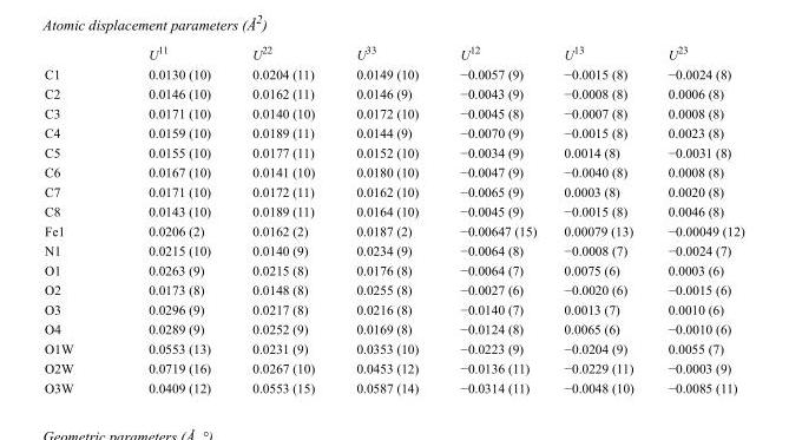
<table><thead><tr><td></td><td>U<sup>11</sup></td><td>U<sup>22</sup></td><td>U<sup>33</sup></td><td>U<sup>12</sup></td><td>U<sup>13</sup></td><td>U<sup>23</sup></td></tr></thead><tbody><tr><td>C1</td><td>0.0130 (10)</td><td>0.0204 (11)</td><td>0.0149 (10)</td><td>−0.0057 (9)</td><td>−0.0015 (8)</td><td>−0.0024 (8)</td></tr><tr><td>C2</td><td>0.0146 (10)</td><td>0.0162 (11)</td><td>0.0146 (9)</td><td>−0.0043 (9)</td><td>−0.0008 (8)</td><td>0.0006 (8)</td></tr><tr><td>C3</td><td>0.0171 (10)</td><td>0.0140 (10)</td><td>0.0172 (10)</td><td>−0.0045 (8)</td><td>−0.0007 (8)</td><td>0.0008 (8)</td></tr><tr><td>C4</td><td>0.0159 (10)</td><td>0.0189 (11)</td><td>0.0144 (9)</td><td>−0.0070 (9)</td><td>−0.0015 (8)</td><td>0.0023 (8)</td></tr><tr><td>C5</td><td>0.0155 (10)</td><td>0.0177 (11)</td><td>0.0152 (10)</td><td>−0.0034 (9)</td><td>0.0014 (8)</td><td>−0.0031 (8)</td></tr><tr><td>C6</td><td>0.0167 (10)</td><td>0.0141 (10)</td><td>0.0180 (10)</td><td>−0.0047 (9)</td><td>−0.0040 (8)</td><td>0.0008 (8)</td></tr><tr><td>C7</td><td>0.0171 (10)</td><td>0.0172 (11)</td><td>0.0162 (10)</td><td>−0.0065 (9)</td><td>0.0003 (8)</td><td>0.0020 (8)</td></tr><tr><td>C8</td><td>0.0143 (10)</td><td>0.0189 (11)</td><td>0.0164 (10)</td><td>−0.0045 (9)</td><td>−0.0015 (8)</td><td>0.0046 (8)</td></tr><tr><td>Fe1</td><td>0.0206 (2)</td><td>0.0162 (2)</td><td>0.0187 (2)</td><td>−0.00647 (15)</td><td>0.00079 (13)</td><td>−0.00049 (12)</td></tr><tr><td>N1</td><td>0.0215 (10)</td><td>0.0140 (9)</td><td>0.0234 (9)</td><td>−0.0064 (8)</td><td>−0.0008 (7)</td><td>−0.0024 (7)</td></tr><tr><td>O1</td><td>0.0263 (9)</td><td>0.0215 (8)</td><td>0.0176 (8)</td><td>−0.0064 (7)</td><td>0.0075 (6)</td><td>0.0003 (6)</td></tr><tr><td>O2</td><td>0.0173 (8)</td><td>0.0148 (8)</td><td>0.0255 (8)</td><td>−0.0027 (6)</td><td>−0.0020 (6)</td><td>−0.0015 (6)</td></tr><tr><td>O3</td><td>0.0296 (9)</td><td>0.0217 (8)</td><td>0.0216 (8)</td><td>−0.0140 (7)</td><td>0.0013 (7)</td><td>0.0010 (6)</td></tr><tr><td>O4</td><td>0.0289 (9)</td><td>0.0252 (9)</td><td>0.0169 (8)</td><td>−0.0124 (8)</td><td>0.0065 (6)</td><td>−0.0010 (6)</td></tr><tr><td>O1W</td><td>0.0553 (13)</td><td>0.0231 (9)</td><td>0.0353 (10)</td><td>−0.0223 (9)</td><td>−0.0204 (9)</td><td>0.0055 (7)</td></tr><tr><td>O2W</td><td>0.0719 (16)</td><td>0.0267 (10)</td><td>0.0453 (12)</td><td>−0.0136 (11)</td><td>−0.0229 (11)</td><td>−0.0003 (9)</td></tr><tr><td>O3W</td><td>0.0409 (12)</td><td>0.0553 (15)</td><td>0.0587 (14)</td><td>−0.0314 (11)</td><td>−0.0048 (10)</td><td>−0.0085 (11)</td></tr></tbody></table>